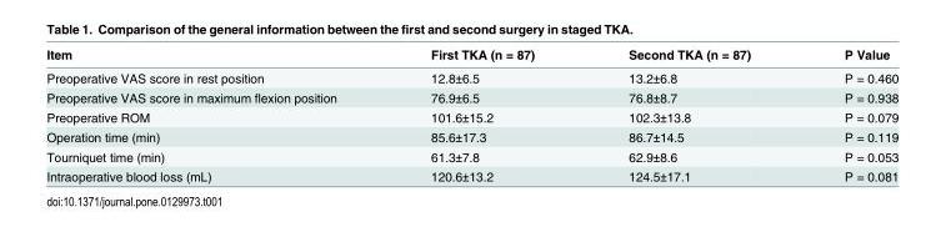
<table><thead><tr><td>Item</td><td>First TKA (n = 87)</td><td>Second TKA (n = 87)</td><td>P Value</td></tr></thead><tbody><tr><td>Preoperative VAS score in rest position</td><td>12.8±6.5</td><td>13.2±6.8</td><td>P = 0.460</td></tr><tr><td>Preoperative VAS score in maximum flexion position</td><td>76.9±6.5</td><td>76.8±8.7</td><td>P = 0.938</td></tr><tr><td>Preoperative ROM</td><td>101.6±15.2</td><td>102.3±13.8</td><td>P = 0.079</td></tr><tr><td>Operation time (min)</td><td>85.6±17.3</td><td>86.7±14.5</td><td>P = 0.119</td></tr><tr><td>Tourniquet time (min)</td><td>61.3±7.8</td><td>62.9±8.6</td><td>P = 0.053</td></tr><tr><td>Intraoperative blood loss (mL)</td><td>120.6±13.2</td><td>124.5±17.1</td><td>P = 0.081</td></tr></tbody></table>